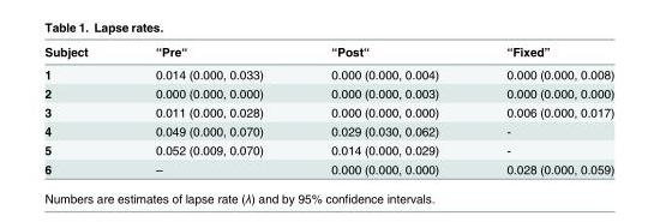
<table><thead><tr><td>Subject</td><td>“Pre“</td><td>“Post“</td><td>“Fixed”</td></tr></thead><tbody><tr><td>1</td><td>0.014 (0.000, 0.033)</td><td>0.000 (0.000, 0.004)</td><td>0.000 (0.000, 0.008)</td></tr><tr><td>2</td><td>0.000 (0.000, 0.000)</td><td>0.000 (0.000, 0.003)</td><td>0.000 (0.000, 0.000)</td></tr><tr><td>3</td><td>0.011 (0.000, 0.028)</td><td>0.000 (0.000, 0.000)</td><td>0.006 (0.000, 0.017)</td></tr><tr><td>4</td><td>0.049 (0.000, 0.070)</td><td>0.029 (0.030, 0.062)</td><td>-</td></tr><tr><td>5</td><td>0.052 (0.009, 0.070)</td><td>0.014 (0.000, 0.029)</td><td>-</td></tr><tr><td>6</td><td>–</td><td>0.000 (0.000, 0.000)</td><td>0.028 (0.000, 0.059)</td></tr></tbody></table>